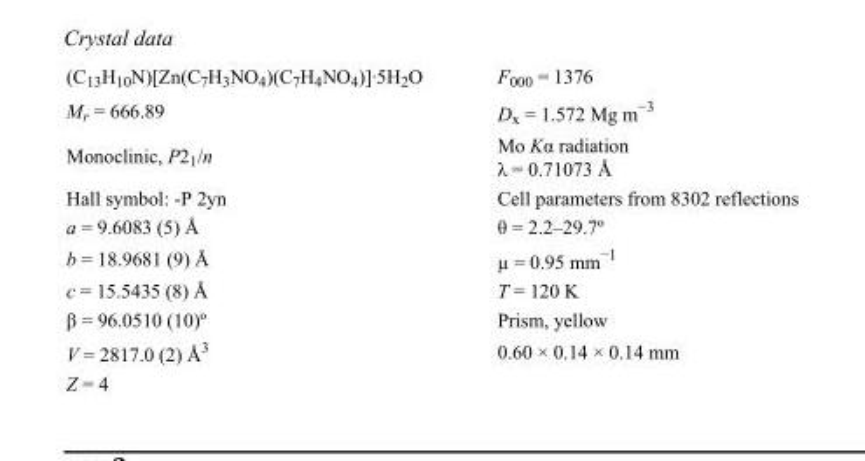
<table><tbody><tr><td>(C<sub>13</sub>H<sub>10</sub>N)[Zn(C<sub>7</sub>H<sub>3</sub>NO<sub>4</sub>)(C<sub>7</sub>H<sub>4</sub>NO<sub>4</sub>)]·5H<sub>2</sub>O</td><td>F000 = 1376</td></tr><tr><td>M<sub>r</sub> = 666.89</td><td>D<sub>x</sub> = 1.572 Mg m<sup>−3</sup></td></tr><tr><td>Monoclinic, P2<sub>1</sub>/n</td><td>Mo Kα radiation λ = 0.71073 Å</td></tr><tr><td>Hall symbol: -P 2yn</td><td>Cell parameters from 8302 reflections</td></tr><tr><td>a = 9.6083 (5) Å</td><td>θ = 2.2–29.7º</td></tr><tr><td>b = 18.9681 (9) Å</td><td>µ = 0.95 mm<sup>−1</sup></td></tr><tr><td>c = 15.5435 (8) Å</td><td>T = 120 K</td></tr><tr><td>β = 96.0510 (10)º</td><td>Prism, yellow</td></tr><tr><td>V = 2817.0 (2) Å<sup>3</sup></td><td>0.60 × 0.14 × 0.14 mm</td></tr><tr><td>Z = 4</td><td></td></tr></tbody></table>